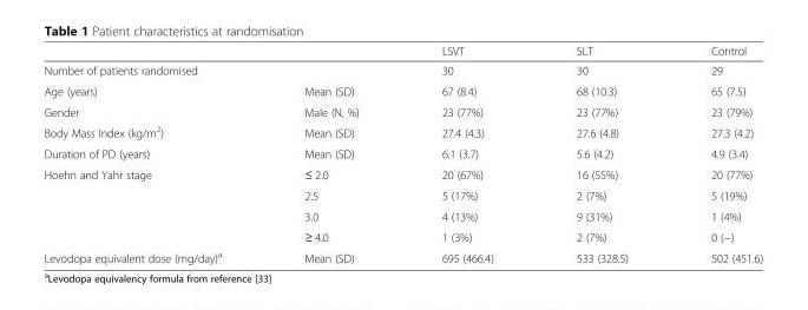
<table><thead><tr><td></td><td></td><td>LSVT</td><td>SLT</td><td>Control</td></tr></thead><tbody><tr><td colspan="2">Number of patients randomised</td><td>30</td><td>30</td><td>29</td></tr><tr><td>Age (years)</td><td>Mean (SD)</td><td>67 (8.4)</td><td>68 (10.3)</td><td>65 (7.5)</td></tr><tr><td>Gender</td><td>Male (N, %)</td><td>23 (77%)</td><td>23 (77%)</td><td>23 (79%)</td></tr><tr><td>Body Mass Index (kg/m<sup>2</sup>)</td><td>Mean (SD)</td><td>27.4 (4.3)</td><td>27.6 (4.8)</td><td>27.3 (4.2)</td></tr><tr><td>Duration of PD (years)</td><td>Mean (SD)</td><td>6.1 (3.7)</td><td>5.6 (4.2)</td><td>4.9 (3.4)</td></tr><tr><td rowspan="4">Hoehn and Yahr stage</td><td>≤ 2.0</td><td>20 (67%)</td><td>16 (55%)</td><td>20 (77%)</td></tr><tr><td>2.5</td><td>5 (17%)</td><td>2 (7%)</td><td>5 (19%)</td></tr><tr><td>3.0</td><td>4 (13%)</td><td>9 (31%)</td><td>1 (4%)</td></tr><tr><td>≥ 4.0</td><td>1 (3%)</td><td>2 (7%)</td><td>0 (−)</td></tr><tr><td>Levodopa equivalent dose (mg/day)<sup>a</sup></td><td>Mean (SD)</td><td>695 (466.4)</td><td>533 (328.5)</td><td>502 (451.6)</td></tr></tbody></table>